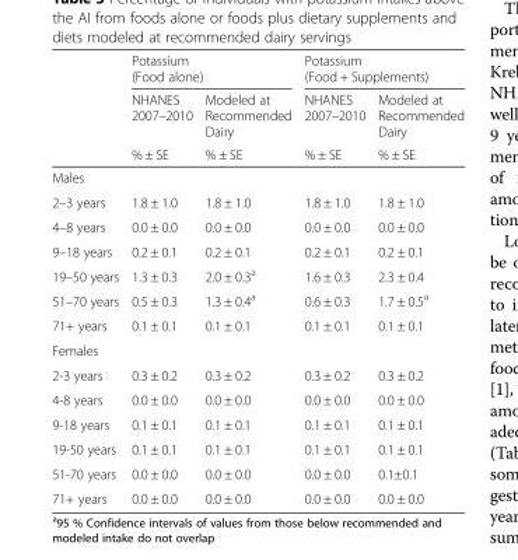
<table><thead><tr><td rowspan="3"></td><td colspan="2">Potassium (Food alone)</td><td colspan="2">Potassium (Food + Supplements)</td></tr><tr><td rowspan="2">NHANES 2007–2010 % ± SE</td><td rowspan="2">Modeled at Recommended Dairy % ± SE</td><td rowspan="2">NHANES 2007–2010 % ± SE</td><td rowspan="2">Modeled at Recommended Dairy % ± SE</td></tr><tr></tr></thead><tbody><tr><td colspan="5">Males</td></tr><tr><td>2–3 years</td><td>1.8 ± 1.0</td><td>1.8 ± 1.0</td><td>1.8 ± 1.0</td><td>1.8 ± 1.0</td></tr><tr><td>4–8 years</td><td>0.0 ± 0.0</td><td>0.0 ± 0.0</td><td>0.0 ± 0.0</td><td>0.0 ± 0.0</td></tr><tr><td>9–18 years</td><td>0.2 ± 0.1</td><td>0.2 ± 0.1</td><td>0.2 ± 0.1</td><td>0.2 ± 0.1</td></tr><tr><td>19–50 years</td><td>1.3 ± 0.3</td><td>2.0 ± 0.3<sup>a</sup></td><td>1.6 ± 0.3</td><td>2.3 ± 0.4</td></tr><tr><td>51–70 years</td><td>0.5 ± 0.3</td><td>1.3 ± 0.4<sup>a</sup></td><td>0.6 ± 0.3</td><td>1.7 ± 0.5<sup>a</sup></td></tr><tr><td>71+ years</td><td>0.1 ± 0.1</td><td>0.1 ± 0.1</td><td>0.1 ± 0.1</td><td>0.1 ± 0.1</td></tr><tr><td colspan="5">Females</td></tr><tr><td>2-3 years</td><td>0.3 ± 0.2</td><td>0.3 ± 0.2</td><td>0.3 ± 0.2</td><td>0.3 ± 0.2</td></tr><tr><td>4-8 years</td><td>0.0 ± 0.0</td><td>0.0 ± 0.0</td><td>0.0 ± 0.0</td><td>0.0 ± 0.0</td></tr><tr><td>9-18 years</td><td>0.1 ± 0.1</td><td>0.1 ± 0.1</td><td>0.1 ± 0.1</td><td>0.1 ± 0.1</td></tr><tr><td>19-50 years</td><td>0.1 ± 0.1</td><td>0.1 ± 0.1</td><td>0.1 ± 0.1</td><td>0.1 ± 0.1</td></tr><tr><td>51-70 years</td><td>0.0 ± 0.0</td><td>0.0 ± 0.0</td><td>0.0 ± 0.0</td><td>0.1±0.1</td></tr><tr><td>71+ years</td><td>0.0 ± 0.0</td><td>0.0 ± 0.0</td><td>0.0 ± 0.0</td><td>0.0 ± 0.0</td></tr></tbody></table>